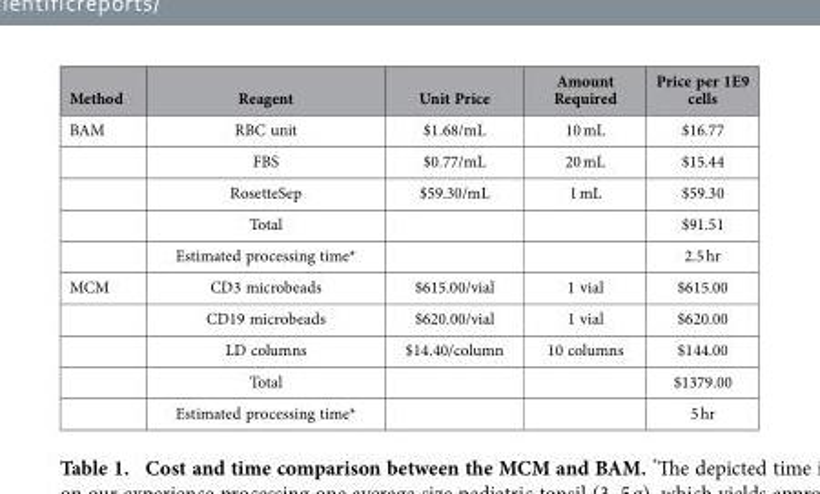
<table><thead><tr><td>Method</td><td>Reagent</td><td>Unit Price</td><td>Amount Required</td><td>Price per 1E9 cells</td></tr></thead><tbody><tr><td rowspan="5">BAM</td><td>RBC unit</td><td>$1.68/mL</td><td>10 mL</td><td>$16.77</td></tr><tr><td>FBS</td><td>$0.77/mL</td><td>20 mL</td><td>$15.44</td></tr><tr><td>RosetteSep</td><td>$59.30/mL</td><td>1 mL</td><td>$59.30</td></tr><tr><td>Total</td><td></td><td></td><td>$91.51</td></tr><tr><td>Estimated processing time*</td><td></td><td></td><td>2.5 hr</td></tr><tr><td rowspan="5">MCM</td><td>CD3 microbeads</td><td>$615.00/vial</td><td>1 vial</td><td>$615.00</td></tr><tr><td>CD19 microbeads</td><td>$620.00/vial</td><td>1 vial</td><td>$620.00</td></tr><tr><td>LD columns</td><td>$14.40/column</td><td>10 columns</td><td>$144.00</td></tr><tr><td>Total</td><td></td><td></td><td>$1379.00</td></tr><tr><td>Estimated processing time*</td><td></td><td></td><td>5 hr</td></tr></tbody></table>